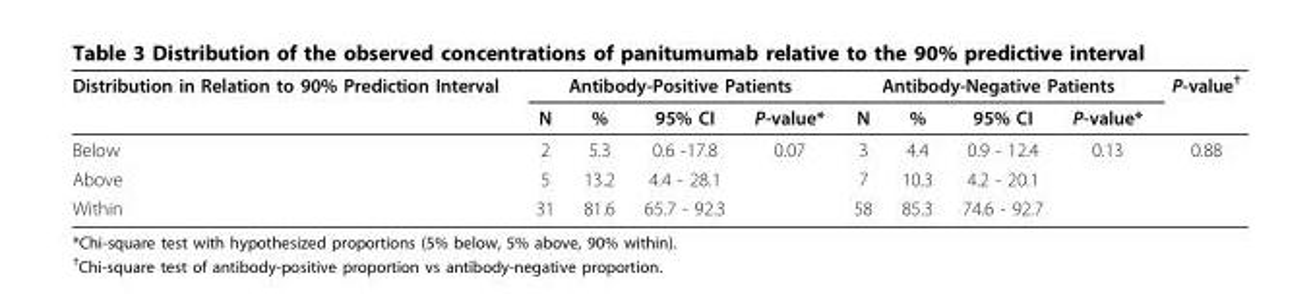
<table><thead><tr><td rowspan="2">Distribution in Relation to 90% Prediction Interval</td><td colspan="4">Antibody-Positive Patients</td><td colspan="4">Antibody-Negative Patients</td><td rowspan="2">P-value<sup>†</sup></td></tr><tr><td>N</td><td>%</td><td>95% CI</td><td>P-value*</td><td>N</td><td>%</td><td>95% CI</td><td>P-value*</td></tr></thead><tbody><tr><td>Below</td><td>2</td><td>5.3</td><td>0.6 -17.8</td><td>0.07</td><td>3</td><td>4.4</td><td>0.9 - 12.4</td><td>0.13</td><td>0.88</td></tr><tr><td>Above</td><td>5</td><td>13.2</td><td>4.4 - 28.1</td><td></td><td>7</td><td>10.3</td><td>4.2 - 20.1</td><td></td><td></td></tr><tr><td>Within</td><td>31</td><td>81.6</td><td>65.7 - 92.3</td><td></td><td>58</td><td>85.3</td><td>74.6 - 92.7</td><td></td><td></td></tr></tbody></table>